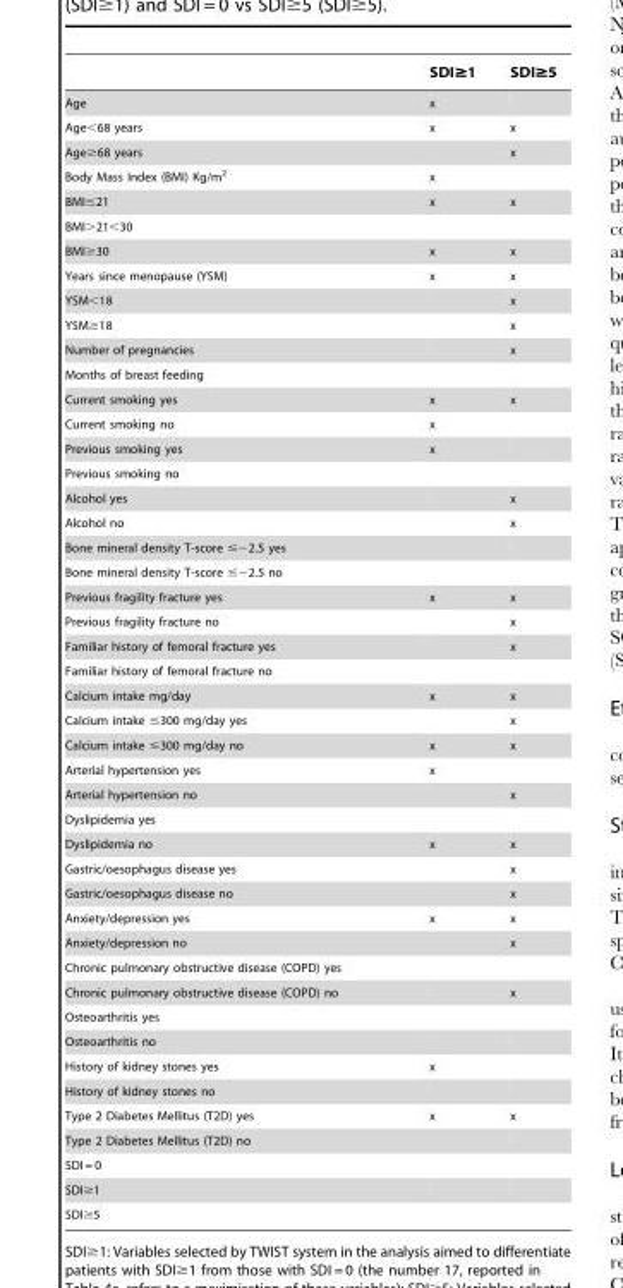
<table><thead><tr><td></td><td>SDI≥1</td><td>SDI≥5</td></tr></thead><tbody><tr><td>Age</td><td>x</td><td></td></tr><tr><td>Age&lt;68 years</td><td>x</td><td>x</td></tr><tr><td>Age≥68 years</td><td></td><td>x</td></tr><tr><td>Body Mass Index (BMI) Kg/m<sup>2</sup></td><td>x</td><td></td></tr><tr><td>BMI≤21</td><td>x</td><td>x</td></tr><tr><td colspan="3">BMI&gt;21&lt;30</td></tr><tr><td>BMI≥30</td><td>x</td><td>x</td></tr><tr><td>Years since menopause (YSM)</td><td>x</td><td>x</td></tr><tr><td>YSM&lt;18</td><td></td><td>x</td></tr><tr><td>YSM≥18</td><td></td><td>x</td></tr><tr><td>Number of pregnancies</td><td></td><td>x</td></tr><tr><td colspan="3">Months of breast feeding</td></tr><tr><td>Current smoking yes</td><td>x</td><td>x</td></tr><tr><td>Current smoking no</td><td>x</td><td></td></tr><tr><td>Previous smoking yes</td><td>x</td><td></td></tr><tr><td colspan="3">Previous smoking no</td></tr><tr><td>Alcohol yes</td><td></td><td>x</td></tr><tr><td>Alcohol no</td><td></td><td>x</td></tr><tr><td colspan="3">Bone mineral density T-score ≤−2.5 yes</td></tr><tr><td colspan="3">Bone mineral density T-score ≤−2.5 no</td></tr><tr><td>Previous fragility fracture yes</td><td>x</td><td>x</td></tr><tr><td>Previous fragility fracture no</td><td></td><td>x</td></tr><tr><td>Familiar history of femoral fracture yes</td><td></td><td>x</td></tr><tr><td colspan="3">Familiar history of femoral fracture no</td></tr><tr><td>Calcium intake mg/day</td><td>x</td><td>x</td></tr><tr><td>Calcium intake ≤300 mg/day yes</td><td></td><td>x</td></tr><tr><td>Calcium intake ≤300 mg/day no</td><td>x</td><td>x</td></tr><tr><td>Arterial hypertension yes</td><td>x</td><td></td></tr><tr><td>Arterial hypertension no</td><td></td><td>x</td></tr><tr><td colspan="3">Dyslipidemia yes</td></tr><tr><td>Dyslipidemia no</td><td>x</td><td>x</td></tr><tr><td>Gastric/oesophagus disease yes</td><td></td><td>x</td></tr><tr><td>Gastric/oesophagus disease no</td><td></td><td>x</td></tr><tr><td>Anxiety/depression yes</td><td>x</td><td>x</td></tr><tr><td>Anxiety/depression no</td><td></td><td>x</td></tr><tr><td colspan="3">Chronic pulmonary obstructive disease (COPD) yes</td></tr><tr><td>Chronic pulmonary obstructive disease (COPD) no</td><td></td><td>x</td></tr><tr><td colspan="3">Osteoarthritis yes</td></tr><tr><td colspan="3">Osteoarthritis no</td></tr><tr><td>History of kidney stones yes</td><td>x</td><td></td></tr><tr><td colspan="3">History of kidney stones no</td></tr><tr><td>Type 2 Diabetes Mellitus (T2D) yes</td><td>x</td><td>x</td></tr><tr><td colspan="3">Type 2 Diabetes Mellitus (T2D) no</td></tr><tr><td colspan="3">SDI = 0</td></tr><tr><td colspan="3">SDI≥1</td></tr><tr><td>SDI≥5</td><td></td><td></td></tr></tbody></table>